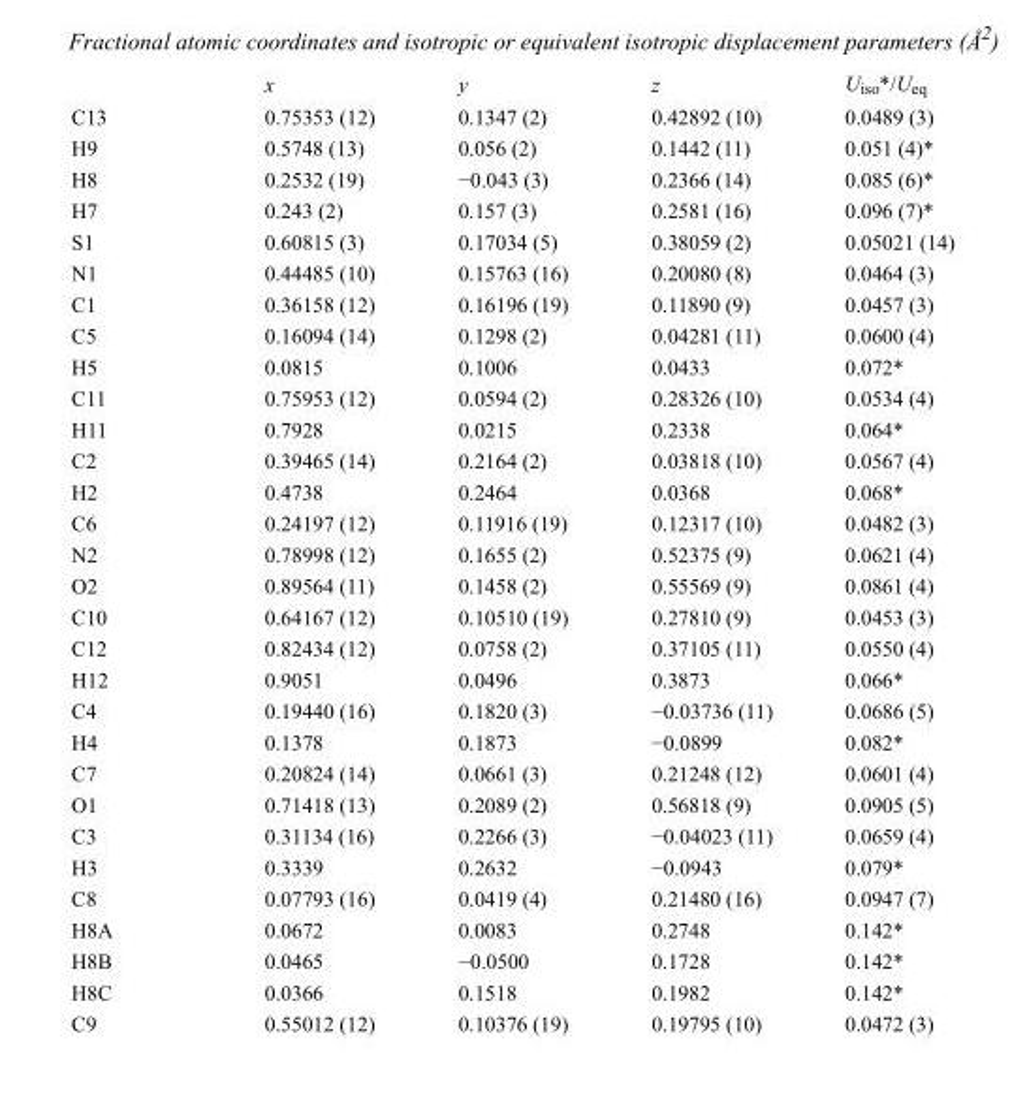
<table><thead><tr><td></td><td>x</td><td>y</td><td>z</td><td>U<sub>iso</sub>*/U<sub>eq</sub></td></tr></thead><tbody><tr><td>C13</td><td>0.75353 (12)</td><td>0.1347 (2)</td><td>0.42892 (10)</td><td>0.0489 (3)</td></tr><tr><td>H9</td><td>0.5748 (13)</td><td>0.056 (2)</td><td>0.1442 (11)</td><td>0.051 (4)*</td></tr><tr><td>H8</td><td>0.2532 (19)</td><td>−0.043 (3)</td><td>0.2366 (14)</td><td>0.085 (6)*</td></tr><tr><td>H7</td><td>0.243 (2)</td><td>0.157 (3)</td><td>0.2581 (16)</td><td>0.096 (7)*</td></tr><tr><td>S1</td><td>0.60815 (3)</td><td>0.17034 (5)</td><td>0.38059 (2)</td><td>0.05021 (14)</td></tr><tr><td>N1</td><td>0.44485 (10)</td><td>0.15763 (16)</td><td>0.20080 (8)</td><td>0.0464 (3)</td></tr><tr><td>C1</td><td>0.36158 (12)</td><td>0.16196 (19)</td><td>0.11890 (9)</td><td>0.0457 (3)</td></tr><tr><td>C5</td><td>0.16094 (14)</td><td>0.1298 (2)</td><td>0.04281 (11)</td><td>0.0600 (4)</td></tr><tr><td>H5</td><td>0.0815</td><td>0.1006</td><td>0.0433</td><td>0.072*</td></tr><tr><td>C11</td><td>0.75953 (12)</td><td>0.0594 (2)</td><td>0.28326 (10)</td><td>0.0534 (4)</td></tr><tr><td>H11</td><td>0.7928</td><td>0.0215</td><td>0.2338</td><td>0.064*</td></tr><tr><td>C2</td><td>0.39465 (14)</td><td>0.2164 (2)</td><td>0.03818 (10)</td><td>0.0567 (4)</td></tr><tr><td>H2</td><td>0.4738</td><td>0.2464</td><td>0.0368</td><td>0.068*</td></tr><tr><td>C6</td><td>0.24197 (12)</td><td>0.11916 (19)</td><td>0.12317 (10)</td><td>0.0482 (3)</td></tr><tr><td>N2</td><td>0.78998 (12)</td><td>0.1655 (2)</td><td>0.52375 (9)</td><td>0.0621 (4)</td></tr><tr><td>O2</td><td>0.89564 (11)</td><td>0.1458 (2)</td><td>0.55569 (9)</td><td>0.0861 (4)</td></tr><tr><td>C10</td><td>0.64167 (12)</td><td>0.10510 (19)</td><td>0.27810 (9)</td><td>0.0453 (3)</td></tr><tr><td>C12</td><td>0.82434 (12)</td><td>0.0758 (2)</td><td>0.37105 (11)</td><td>0.0550 (4)</td></tr><tr><td>H12</td><td>0.9051</td><td>0.0496</td><td>0.3873</td><td>0.066*</td></tr><tr><td>C4</td><td>0.19440 (16)</td><td>0.1820 (3)</td><td>−0.03736 (11)</td><td>0.0686 (5)</td></tr><tr><td>H4</td><td>0.1378</td><td>0.1873</td><td>−0.0899</td><td>0.082*</td></tr><tr><td>C7</td><td>0.20824 (14)</td><td>0.0661 (3)</td><td>0.21248 (12)</td><td>0.0601 (4)</td></tr><tr><td>O1</td><td>0.71418 (13)</td><td>0.2089 (2)</td><td>0.56818 (9)</td><td>0.0905 (5)</td></tr><tr><td>C3</td><td>0.31134 (16)</td><td>0.2266 (3)</td><td>−0.04023 (11)</td><td>0.0659 (4)</td></tr><tr><td>H3</td><td>0.3339</td><td>0.2632</td><td>−0.0943</td><td>0.079*</td></tr><tr><td>C8</td><td>0.07793 (16)</td><td>0.0419 (4)</td><td>0.21480 (16)</td><td>0.0947 (7)</td></tr><tr><td>H8A</td><td>0.0672</td><td>0.0083</td><td>0.2748</td><td>0.142*</td></tr><tr><td>H8B</td><td>0.0465</td><td>−0.0500</td><td>0.1728</td><td>0.142*</td></tr><tr><td>H8C</td><td>0.0366</td><td>0.1518</td><td>0.1982</td><td>0.142*</td></tr><tr><td>C9</td><td>0.55012 (12)</td><td>0.10376 (19)</td><td>0.19795 (10)</td><td>0.0472 (3)</td></tr></tbody></table>